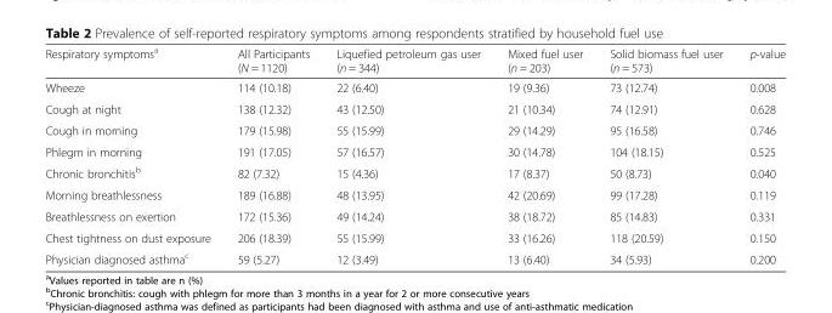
<table><thead><tr><td>Respiratory symptoms<sup>a</sup></td><td>All Participants (N = 1120)</td><td>Liquefied petroleum gas user (n = 344)</td><td>Mixed fuel user (n = 203)</td><td>Solid biomass fuel user (n = 573)</td><td>p-value</td></tr></thead><tbody><tr><td>Wheeze</td><td>114 (10.18)</td><td>22 (6.40)</td><td>19 (9.36)</td><td>73 (12.74)</td><td>0.008</td></tr><tr><td>Cough at night</td><td>138 (12.32)</td><td>43 (12.50)</td><td>21 (10.34)</td><td>74 (12.91)</td><td>0.628</td></tr><tr><td>Cough in morning</td><td>179 (15.98)</td><td>55 (15.99)</td><td>29 (14.29)</td><td>95 (16.58)</td><td>0.746</td></tr><tr><td>Phlegm in morning</td><td>191 (17.05)</td><td>57 (16.57)</td><td>30 (14.78)</td><td>104 (18.15)</td><td>0.525</td></tr><tr><td>Chronic bronchitis<sup>b</sup></td><td>82 (7.32)</td><td>15 (4.36)</td><td>17 (8.37)</td><td>50 (8.73)</td><td>0.040</td></tr><tr><td>Morning breathlessness</td><td>189 (16.88)</td><td>48 (13.95)</td><td>42 (20.69)</td><td>99 (17.28)</td><td>0.119</td></tr><tr><td>Breathlessness on exertion</td><td>172 (15.36)</td><td>49 (14.24)</td><td>38 (18.72)</td><td>85 (14.83)</td><td>0.331</td></tr><tr><td>Chest tightness on dust exposure</td><td>206 (18.39)</td><td>55 (15.99)</td><td>33 (16.26)</td><td>118 (20.59)</td><td>0.150</td></tr><tr><td>Physician diagnosed asthma<sup>c</sup></td><td>59 (5.27)</td><td>12 (3.49)</td><td>13 (6.40)</td><td>34 (5.93)</td><td>0.200</td></tr></tbody></table>